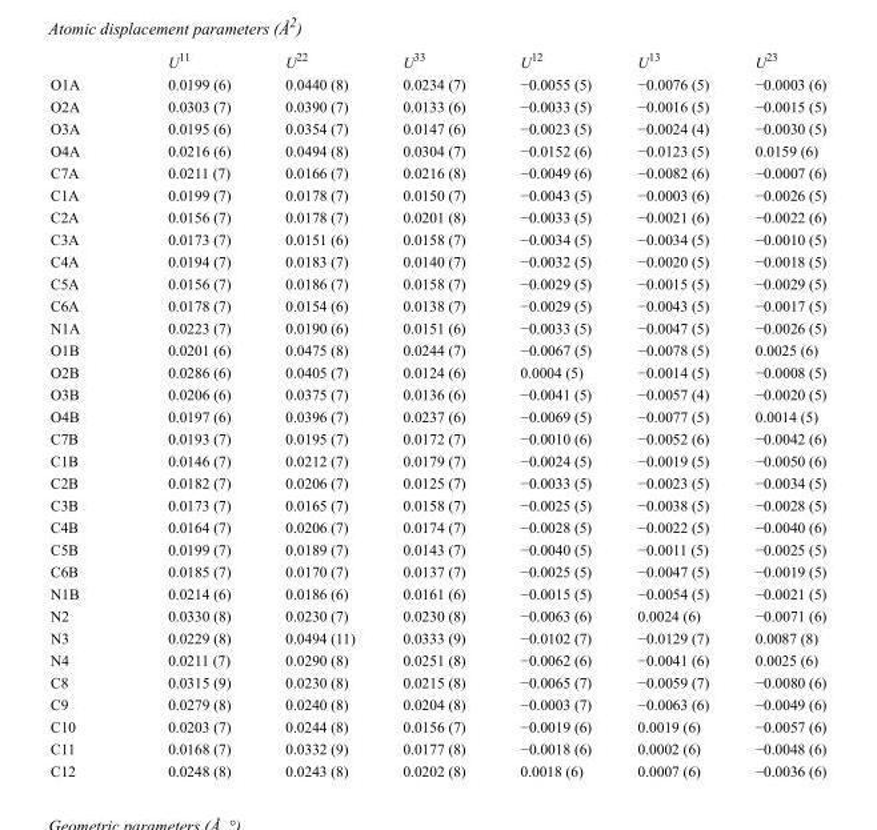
<table><thead><tr><td></td><td>U<sup>11</sup></td><td>U<sup>22</sup></td><td>U<sup>33</sup></td><td>U<sup>12</sup></td><td>U<sup>13</sup></td><td>U<sup>23</sup></td></tr></thead><tbody><tr><td>O1A</td><td>0.0199 (6)</td><td>0.0440 (8)</td><td>0.0234 (7)</td><td>−0.0055 (5)</td><td>−0.0076 (5)</td><td>−0.0003 (6)</td></tr><tr><td>O2A</td><td>0.0303 (7)</td><td>0.0390 (7)</td><td>0.0133 (6)</td><td>−0.0033 (5)</td><td>−0.0016 (5)</td><td>−0.0015 (5)</td></tr><tr><td>O3A</td><td>0.0195 (6)</td><td>0.0354 (7)</td><td>0.0147 (6)</td><td>−0.0023 (5)</td><td>−0.0024 (4)</td><td>−0.0030 (5)</td></tr><tr><td>O4A</td><td>0.0216 (6)</td><td>0.0494 (8)</td><td>0.0304 (7)</td><td>−0.0152 (6)</td><td>−0.0123 (5)</td><td>0.0159 (6)</td></tr><tr><td>C7A</td><td>0.0211 (7)</td><td>0.0166 (7)</td><td>0.0216 (8)</td><td>−0.0049 (6)</td><td>−0.0082 (6)</td><td>−0.0007 (6)</td></tr><tr><td>C1A</td><td>0.0199 (7)</td><td>0.0178 (7)</td><td>0.0150 (7)</td><td>−0.0043 (5)</td><td>−0.0003 (6)</td><td>−0.0026 (5)</td></tr><tr><td>C2A</td><td>0.0156 (7)</td><td>0.0178 (7)</td><td>0.0201 (8)</td><td>−0.0033 (5)</td><td>−0.0021 (6)</td><td>−0.0022 (6)</td></tr><tr><td>C3A</td><td>0.0173 (7)</td><td>0.0151 (6)</td><td>0.0158 (7)</td><td>−0.0034 (5)</td><td>−0.0034 (5)</td><td>−0.0010 (5)</td></tr><tr><td>C4A</td><td>0.0194 (7)</td><td>0.0183 (7)</td><td>0.0140 (7)</td><td>−0.0032 (5)</td><td>−0.0020 (5)</td><td>−0.0018 (5)</td></tr><tr><td>C5A</td><td>0.0156 (7)</td><td>0.0186 (7)</td><td>0.0158 (7)</td><td>−0.0029 (5)</td><td>−0.0015 (5)</td><td>−0.0029 (5)</td></tr><tr><td>C6A</td><td>0.0178 (7)</td><td>0.0154 (6)</td><td>0.0138 (7)</td><td>−0.0029 (5)</td><td>−0.0043 (5)</td><td>−0.0017 (5)</td></tr><tr><td>N1A</td><td>0.0223 (7)</td><td>0.0190 (6)</td><td>0.0151 (6)</td><td>−0.0033 (5)</td><td>−0.0047 (5)</td><td>−0.0026 (5)</td></tr><tr><td>O1B</td><td>0.0201 (6)</td><td>0.0475 (8)</td><td>0.0244 (7)</td><td>−0.0067 (5)</td><td>−0.0078 (5)</td><td>0.0025 (6)</td></tr><tr><td>O2B</td><td>0.0286 (6)</td><td>0.0405 (7)</td><td>0.0124 (6)</td><td>0.0004 (5)</td><td>−0.0014 (5)</td><td>−0.0008 (5)</td></tr><tr><td>O3B</td><td>0.0206 (6)</td><td>0.0375 (7)</td><td>0.0136 (6)</td><td>−0.0041 (5)</td><td>−0.0057 (4)</td><td>−0.0020 (5)</td></tr><tr><td>O4B</td><td>0.0197 (6)</td><td>0.0396 (7)</td><td>0.0237 (6)</td><td>−0.0069 (5)</td><td>−0.0077 (5)</td><td>0.0014 (5)</td></tr><tr><td>C7B</td><td>0.0193 (7)</td><td>0.0195 (7)</td><td>0.0172 (7)</td><td>−0.0010 (6)</td><td>−0.0052 (6)</td><td>−0.0042 (6)</td></tr><tr><td>C1B</td><td>0.0146 (7)</td><td>0.0212 (7)</td><td>0.0179 (7)</td><td>−0.0024 (5)</td><td>−0.0019 (5)</td><td>−0.0050 (6)</td></tr><tr><td>C2B</td><td>0.0182 (7)</td><td>0.0206 (7)</td><td>0.0125 (7)</td><td>−0.0033 (5)</td><td>−0.0023 (5)</td><td>−0.0034 (5)</td></tr><tr><td>C3B</td><td>0.0173 (7)</td><td>0.0165 (7)</td><td>0.0158 (7)</td><td>−0.0025 (5)</td><td>−0.0038 (5)</td><td>−0.0028 (5)</td></tr><tr><td>C4B</td><td>0.0164 (7)</td><td>0.0206 (7)</td><td>0.0174 (7)</td><td>−0.0028 (5)</td><td>−0.0022 (5)</td><td>−0.0040 (6)</td></tr><tr><td>C5B</td><td>0.0199 (7)</td><td>0.0189 (7)</td><td>0.0143 (7)</td><td>−0.0040 (5)</td><td>−0.0011 (5)</td><td>−0.0025 (5)</td></tr><tr><td>C6B</td><td>0.0185 (7)</td><td>0.0170 (7)</td><td>0.0137 (7)</td><td>−0.0025 (5)</td><td>−0.0047 (5)</td><td>−0.0019 (5)</td></tr><tr><td>N1B</td><td>0.0214 (6)</td><td>0.0186 (6)</td><td>0.0161 (6)</td><td>−0.0015 (5)</td><td>−0.0054 (5)</td><td>−0.0021 (5)</td></tr><tr><td>N2</td><td>0.0330 (8)</td><td>0.0230 (7)</td><td>0.0230 (8)</td><td>−0.0063 (6)</td><td>0.0024 (6)</td><td>−0.0071 (6)</td></tr><tr><td>N3</td><td>0.0229 (8)</td><td>0.0494 (11)</td><td>0.0333 (9)</td><td>−0.0102 (7)</td><td>−0.0129 (7)</td><td>0.0087 (8)</td></tr><tr><td>N4</td><td>0.0211 (7)</td><td>0.0290 (8)</td><td>0.0251 (8)</td><td>−0.0062 (6)</td><td>−0.0041 (6)</td><td>0.0025 (6)</td></tr><tr><td>C8</td><td>0.0315 (9)</td><td>0.0230 (8)</td><td>0.0215 (8)</td><td>−0.0065 (7)</td><td>−0.0059 (7)</td><td>−0.0080 (6)</td></tr><tr><td>C9</td><td>0.0279 (8)</td><td>0.0240 (8)</td><td>0.0204 (8)</td><td>−0.0003 (7)</td><td>−0.0063 (6)</td><td>−0.0049 (6)</td></tr><tr><td>C10</td><td>0.0203 (7)</td><td>0.0244 (8)</td><td>0.0156 (7)</td><td>−0.0019 (6)</td><td>0.0019 (6)</td><td>−0.0057 (6)</td></tr><tr><td>C11</td><td>0.0168 (7)</td><td>0.0332 (9)</td><td>0.0177 (8)</td><td>−0.0018 (6)</td><td>0.0002 (6)</td><td>−0.0048 (6)</td></tr><tr><td>C12</td><td>0.0248 (8)</td><td>0.0243 (8)</td><td>0.0202 (8)</td><td>0.0018 (6)</td><td>0.0007 (6)</td><td>−0.0036 (6)</td></tr></tbody></table>